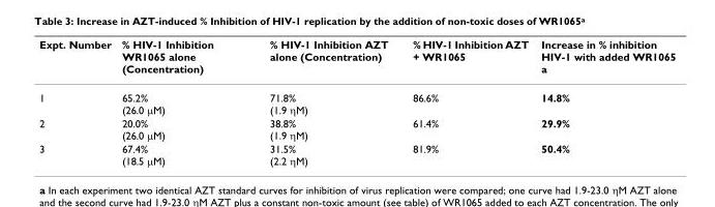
<table><thead><tr><td>Expt. Number</td><td>% HIV-1 Inhibition WR1065 alone (Concentration)</td><td>% HIV-1 Inhibition AZT alone (Concentration)</td><td>% HIV-1 Inhibition AZT + WR1065</td><td>Increase in % inhibition HIV-1 with added WR1065 a</td></tr></thead><tbody><tr><td>1</td><td>65.2% (26.0 μM)</td><td>71.8% (1.9 ηM)</td><td>86.6%</td><td>14.8%</td></tr><tr><td>2</td><td>20.0% (26.0 μM)</td><td>38.8% (1.9 ηM)</td><td>61.4%</td><td>29.9%</td></tr><tr><td>3</td><td>67.4% (18.5 μM)</td><td>31.5% (2.2 ηM)</td><td>81.9%</td><td>50.4%</td></tr></tbody></table>